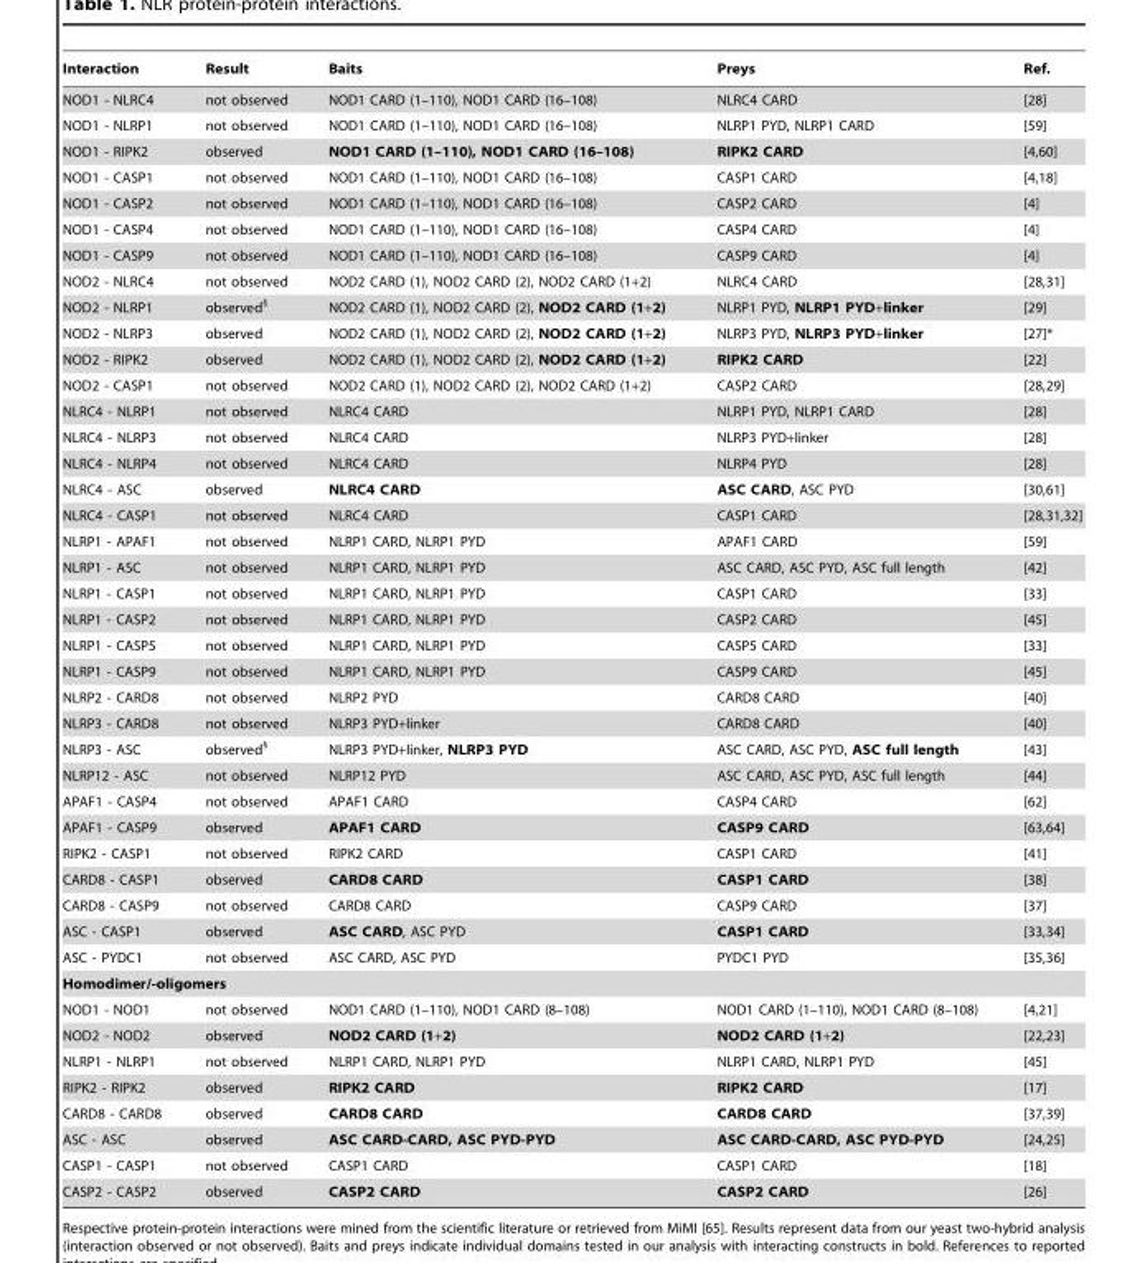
<table><thead><tr><td>Interaction</td><td>Result</td><td>Baits</td><td>Preys</td><td>Ref.</td></tr></thead><tbody><tr><td>NOD1 - NLRC4</td><td>not observed</td><td>NOD1 CARD (1–110), NOD1 CARD (16–108)</td><td>NLRC4 CARD</td><td>[28]</td></tr><tr><td>NOD1 - NLRP1</td><td>not observed</td><td>NOD1 CARD (1–110), NOD1 CARD (16–108)</td><td>NLRP1 PYD, NLRP1 CARD</td><td>[59]</td></tr><tr><td>NOD1 - RIPK2</td><td>observed</td><td>NOD1 CARD (1–110), NOD1 CARD (16–108)</td><td>RIPK2 CARD</td><td>[4,60]</td></tr><tr><td>NOD1 - CASP1</td><td>not observed</td><td>NOD1 CARD (1–110), NOD1 CARD (16–108)</td><td>CASP1 CARD</td><td>[4,18]</td></tr><tr><td>NOD1 - CASP2</td><td>not observed</td><td>NOD1 CARD (1–110), NOD1 CARD (16–108)</td><td>CASP2 CARD</td><td>[4]</td></tr><tr><td>NOD1 - CASP4</td><td>not observed</td><td>NOD1 CARD (1–110), NOD1 CARD (16–108)</td><td>CASP4 CARD</td><td>[4]</td></tr><tr><td>NOD1 - CASP9</td><td>not observed</td><td>NOD1 CARD (1–110), NOD1 CARD (16–108)</td><td>CASP9 CARD</td><td>[4]</td></tr><tr><td>NOD2 - NLRC4</td><td>not observed</td><td>NOD2 CARD (1), NOD2 CARD (2), NOD2 CARD (1+2)</td><td>NLRC4 CARD</td><td>[28,31]</td></tr><tr><td>NOD2 - NLRP1</td><td>observed§</td><td>NOD2 CARD (1), NOD2 CARD (2), NOD2 CARD (1+2)</td><td>NLRP1 PYD, NLRP1 PYD+linker</td><td>[29]</td></tr><tr><td>NOD2 - NLRP3</td><td>observed</td><td>NOD2 CARD (1), NOD2 CARD (2), NOD2 CARD (1+2)</td><td>NLRP3 PYD, NLRP3 PYD+linker</td><td>[27]*</td></tr><tr><td>NOD2 - RIPK2</td><td>observed</td><td>NOD2 CARD (1), NOD2 CARD (2), NOD2 CARD (1+2)</td><td>RIPK2 CARD</td><td>[22]</td></tr><tr><td>NOD2 - CASP1</td><td>not observed</td><td>NOD2 CARD (1), NOD2 CARD (2), NOD2 CARD (1+2)</td><td>CASP2 CARD</td><td>[28,29]</td></tr><tr><td>NLRC4 - NLRP1</td><td>not observed</td><td>NLRC4 CARD</td><td>NLRP1 PYD, NLRP1 CARD</td><td>[28]</td></tr><tr><td>NLRC4 - NLRP3</td><td>not observed</td><td>NLRC4 CARD</td><td>NLRP3 PYD+linker</td><td>[28]</td></tr><tr><td>NLRC4 - NLRP4</td><td>not observed</td><td>NLRC4 CARD</td><td>NLRP4 PYD</td><td>[28]</td></tr><tr><td>NLRC4 - ASC</td><td>observed</td><td>NLRC4 CARD</td><td>ASC CARD, ASC PYD</td><td>[30,61]</td></tr><tr><td>NLRC4 - CASP1</td><td>not observed</td><td>NLRC4 CARD</td><td>CASP1 CARD</td><td>[28,31,32]</td></tr><tr><td>NLRP1 - APAF1</td><td>not observed</td><td>NLRP1 CARD, NLRP1 PYD</td><td>APAF1 CARD</td><td>[59]</td></tr><tr><td>NLRP1 - ASC</td><td>not observed</td><td>NLRP1 CARD, NLRP1 PYD</td><td>ASC CARD, ASC PYD, ASC full length</td><td>[42]</td></tr><tr><td>NLRP1 - CASP1</td><td>not observed</td><td>NLRP1 CARD, NLRP1 PYD</td><td>CASP1 CARD</td><td>[33]</td></tr><tr><td>NLRP1 - CASP2</td><td>not observed</td><td>NLRP1 CARD, NLRP1 PYD</td><td>CASP2 CARD</td><td>[45]</td></tr><tr><td>NLRP1 - CASP5</td><td>not observed</td><td>NLRP1 CARD, NLRP1 PYD</td><td>CASP5 CARD</td><td>[33]</td></tr><tr><td>NLRP1 - CASP9</td><td>not observed</td><td>NLRP1 CARD, NLRP1 PYD</td><td>CASP9 CARD</td><td>[45]</td></tr><tr><td>NLRP2 - CARD8</td><td>not observed</td><td>NLRP2 PYD</td><td>CARD8 CARD</td><td>[40]</td></tr><tr><td>NLRP3 - CARD8</td><td>not observed</td><td>NLRP3 PYD+linker</td><td>CARD8 CARD</td><td>[40]</td></tr><tr><td>NLRP3 - ASC</td><td>observed§</td><td>NLRP3 PYD+linker, NLRP3 PYD</td><td>ASC CARD, ASC PYD, ASC full length</td><td>[43]</td></tr><tr><td>NLRP12 - ASC</td><td>not observed</td><td>NLRP12 PYD</td><td>ASC CARD, ASC PYD, ASC full length</td><td>[44]</td></tr><tr><td>APAF1 - CASP4</td><td>not observed</td><td>APAF1 CARD</td><td>CASP4 CARD</td><td>[62]</td></tr><tr><td>APAF1 - CASP9</td><td>observed</td><td>APAF1 CARD</td><td>CASP9 CARD</td><td>[63,64]</td></tr><tr><td>RIPK2 - CASP1</td><td>not observed</td><td>RIPK2 CARD</td><td>CASP1 CARD</td><td>[41]</td></tr><tr><td>CARD8 - CASP1</td><td>observed</td><td>CARD8 CARD</td><td>CASP1 CARD</td><td>[38]</td></tr><tr><td>CARD8 - CASP9</td><td>not observed</td><td>CARD8 CARD</td><td>CASP9 CARD</td><td>[37]</td></tr><tr><td>ASC - CASP1</td><td>observed</td><td>ASC CARD, ASC PYD</td><td>CASP1 CARD</td><td>[33,34]</td></tr><tr><td>ASC - PYDC1</td><td>not observed</td><td>ASC CARD, ASC PYD</td><td>PYDC1 PYD</td><td>[35,36]</td></tr><tr><td colspan="5">Homodimer/-oligomers</td></tr><tr><td>NOD1 - NOD1</td><td>not observed</td><td>NOD1 CARD (1–110), NOD1 CARD (8–108)</td><td>NOD1 CARD (1–110), NOD1 CARD (8–108)</td><td>[4,21]</td></tr><tr><td>NOD2 - NOD2</td><td>observed</td><td>NOD2 CARD (1+2)</td><td>NOD2 CARD (1+2)</td><td>[22,23]</td></tr><tr><td>NLRP1 - NLRP1</td><td>not observed</td><td>NLRP1 CARD, NLRP1 PYD</td><td>NLRP1 CARD, NLRP1 PYD</td><td>[45]</td></tr><tr><td>RIPK2 - RIPK2</td><td>observed</td><td>RIPK2 CARD</td><td>RIPK2 CARD</td><td>[17]</td></tr><tr><td>CARD8 - CARD8</td><td>observed</td><td>CARD8 CARD</td><td>CARD8 CARD</td><td>[37,39]</td></tr><tr><td>ASC - ASC</td><td>observed</td><td>ASC CARD-CARD, ASC PYD-PYD</td><td>ASC CARD-CARD, ASC PYD-PYD</td><td>[24,25]</td></tr><tr><td>CASP1 - CASP1</td><td>not observed</td><td>CASP1 CARD</td><td>CASP1 CARD</td><td>[18]</td></tr><tr><td>CASP2 - CASP2</td><td>observed</td><td>CASP2 CARD</td><td>CASP2 CARD</td><td>[26]</td></tr></tbody></table>